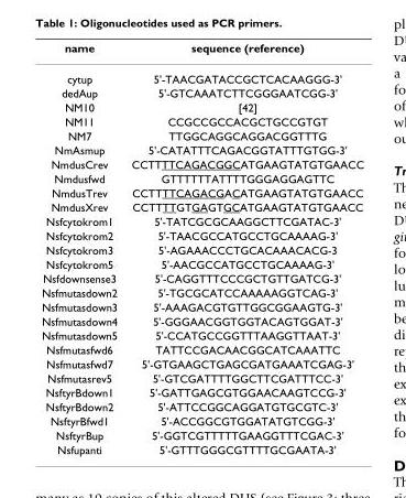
<table><thead><tr><td>name</td><td>sequence (reference)</td></tr></thead><tbody><tr><td>cytup</td><td>5&#x27;-TAACGATACCGCTCACAAGGG-3&#x27;</td></tr><tr><td>dedAup</td><td>5&#x27;-GTCAAATCTTCGGGAATCGG-3&#x27;</td></tr><tr><td>NM10</td><td>[42]</td></tr><tr><td>NM11</td><td>CCGCCGCCACGCTGCCGTGT</td></tr><tr><td>NM7</td><td>TTGGCAGGCAGGACGGTTTG</td></tr><tr><td>NmAsmup</td><td>5&#x27;-CATATTTCAGACGGTATTTGTGG-3&#x27;</td></tr><tr><td>NmdusCrev</td><td>CCTTTTCAGACGGCATGAAGTATGTGAACC</td></tr><tr><td>Nmdusfwd</td><td>GTTTTTTATTTTGGGAGGAGTTC</td></tr><tr><td>NmdusTrev</td><td>CCTTTTCAGACGACATGAAGTATGTGAACC</td></tr><tr><td>NmdusXrev</td><td>CCTTTTGTGAGTGCATGAAGTATGTGAACC</td></tr><tr><td>Nsfcytokrom1</td><td>5&#x27;-TATCGCGCAAGGCTTCGATAC-3&#x27;</td></tr><tr><td>Nsfcytokrom2</td><td>5&#x27;-TAACGCCATGCCTGCAAAAG-3&#x27;</td></tr><tr><td>Nsfcytokrom3</td><td>5&#x27;-AGAAACCCTGCACAAACACG-3</td></tr><tr><td>Nsfcytokrom5</td><td>5&#x27;-AACGCCATGCCTGCAAAAG-3&#x27;</td></tr><tr><td>Nsfdownsense3</td><td>5&#x27;-CAGGTTTCCCGCTGTTGATCG-3&#x27;</td></tr><tr><td>Nsfmutasdown2</td><td>5&#x27;-TGCGCATCCAAAAAGGTCAG-3&#x27;</td></tr><tr><td>Nsfmutasdown3</td><td>5&#x27;-AAAGACGTGTTGGCGGAAGTG-3&#x27;</td></tr><tr><td>Nsfmutasdown4</td><td>5&#x27;-GGGAACGGTGGTACAGTGGAT-3&#x27;</td></tr><tr><td>Nsfmutasdown5</td><td>5&#x27;-CCATGCCGGTTTAAGGTTAAT-3&#x27;</td></tr><tr><td>Nsfmutasfwd6</td><td>TATTCCGACAACGGCATCAAATTC</td></tr><tr><td>Nsfmutasfwd7</td><td>5&#x27;-GTGAAGCTGAGCGATGAAATCGAG-3&#x27;</td></tr><tr><td>Nsfmutasrev5</td><td>5&#x27;-GTCGATTTTGGCTTCGATTTCC-3&#x27;</td></tr><tr><td>NsftyrBdown1</td><td>5&#x27;-GATTGAGCGTGGAACAAGTCCG-3&#x27;</td></tr><tr><td>NsftyrBdown2</td><td>5&#x27;-ATTCCGGCAGGATGTGCGTC-3&#x27;</td></tr><tr><td>NsftyrBfwd1</td><td>5&#x27;-ACCGGCGTGGATATGTCGG-3&#x27;</td></tr><tr><td>NsftyrBup</td><td>5&#x27;-GGTCGTTTTTGAAGGTTTCGAC-3&#x27;</td></tr><tr><td>Nsfupanti</td><td>5&#x27;-GTTTGGGCGTTTTGCGAATA-3&#x27;</td></tr></tbody></table>